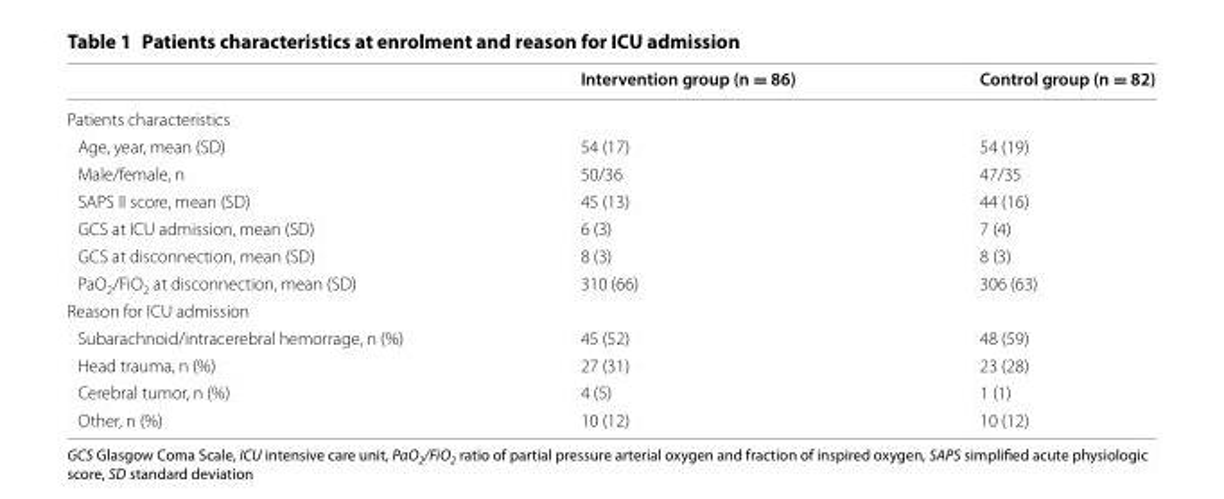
<table><thead><tr><td></td><td>Intervention group (n = 86)</td><td>Control group (n = 82)</td></tr></thead><tbody><tr><td colspan="3">Patients characteristics</td></tr><tr><td>Age, year, mean (SD)</td><td>54 (17)</td><td>54 (19)</td></tr><tr><td>Male/female, n</td><td>50/36</td><td>47/35</td></tr><tr><td>SAPS II score, mean (SD)</td><td>45 (13)</td><td>44 (16)</td></tr><tr><td>GCS at ICU admission, mean (SD)</td><td>6 (3)</td><td>7 (4)</td></tr><tr><td>GCS at disconnection, mean (SD)</td><td>8 (3)</td><td>8 (3)</td></tr><tr><td>PaO<sub>2</sub>/FiO<sub>2</sub> at disconnection, mean (SD)</td><td>310 (66)</td><td>306 (63)</td></tr><tr><td colspan="3">Reason for ICU admission</td></tr><tr><td>Subarachnoid/intracerebral hemorrage, n (%)</td><td>45 (52)</td><td>48 (59)</td></tr><tr><td>Head trauma, n (%)</td><td>27 (31)</td><td>23 (28)</td></tr><tr><td>Cerebral tumor, n (%)</td><td>4 (5)</td><td>1 (1)</td></tr><tr><td>Other, n (%)</td><td>10 (12)</td><td>10 (12)</td></tr></tbody></table>